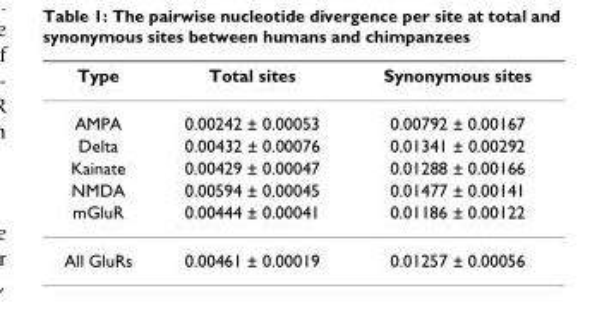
<table><thead><tr><td>Type</td><td>Total sites</td><td>Synonymous sites</td></tr></thead><tbody><tr><td>AMPA</td><td>0.00242 ± 0.00053</td><td>0.00792 ± 0.00167</td></tr><tr><td>Delta</td><td>0.00432 ± 0.00076</td><td>0.01341 ± 0.00292</td></tr><tr><td>Kainate</td><td>0.00429 ± 0.00047</td><td>0.01288 ± 0.00166</td></tr><tr><td>NMDA</td><td>0.00594 ± 0.00045</td><td>0.01477 ± 0.00141</td></tr><tr><td>mGluR</td><td>0.00444 ± 0.00041</td><td>0.01186 ± 0.00122</td></tr><tr><td>All GluRs</td><td>0.00461 ± 0.00019</td><td>0.01257 ± 0.00056</td></tr></tbody></table>